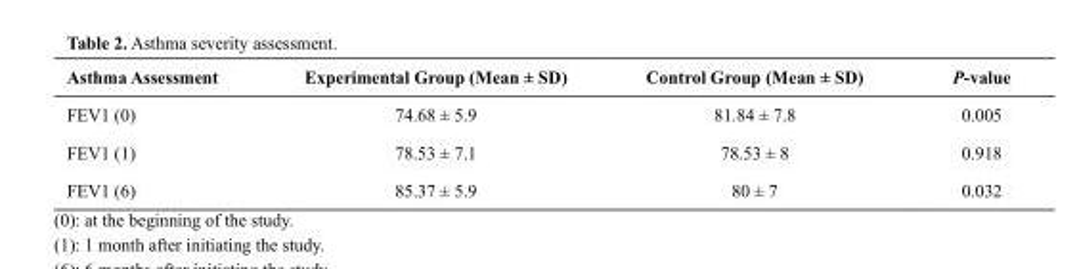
<table><thead><tr><td>Asthma Assessment</td><td>Experimental Group (Mean ± SD)</td><td>Control Group (Mean ± SD)</td><td>P-value</td></tr></thead><tbody><tr><td>FEV1 (0)</td><td>74.68 ± 5.9</td><td>81.84 ± 7.8</td><td>0.005</td></tr><tr><td>FEV1 (1)</td><td>78.53 ± 7.1</td><td>78.53 ± 8</td><td>0.918</td></tr><tr><td>FEV1 (6)</td><td>85.37 ± 5.9</td><td>80 ± 7</td><td>0.032</td></tr></tbody></table>